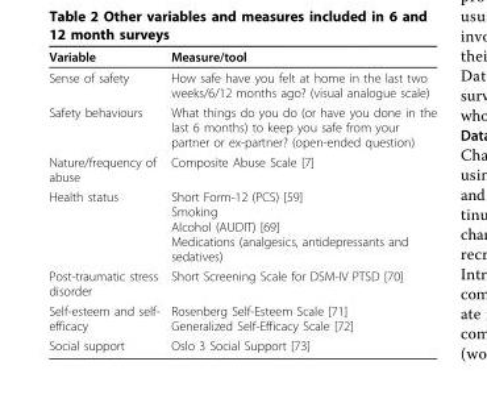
<table><thead><tr><td>Variable</td><td>Measure/tool</td></tr></thead><tbody><tr><td>Sense of safety</td><td>How safe have you felt at home in the last two weeks/6/12 months ago? (visual analogue scale)</td></tr><tr><td>Safety behaviours</td><td>What things do you do (or have you done in the last 6 months) to keep you safe from your partner or ex-partner? (open-ended question)</td></tr><tr><td>Nature/frequency of abuse</td><td>Composite Abuse Scale [7]</td></tr><tr><td>Health status</td><td>Short Form-12 (PCS) [59] Smoking Alcohol (AUDIT) [69] Medications (analgesics, antidepressants and sedatives)</td></tr><tr><td>Post-traumatic stress disorder</td><td>Short Screening Scale for DSM-IV PTSD [70]</td></tr><tr><td>Self-esteem and self- efficacy</td><td>Rosenberg Self-Esteem Scale [71] Generalized Self-Efficacy Scale [72]</td></tr><tr><td>Social support</td><td>Oslo 3 Social Support [73]</td></tr></tbody></table>